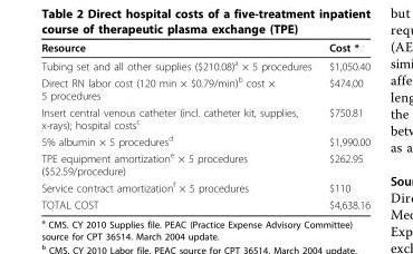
<table><thead><tr><td>Resource</td><td>Cost *</td></tr></thead><tbody><tr><td>Tubing set and all other supplies ($210.08)<sup>a</sup> × 5 procedures</td><td>$1,050.40</td></tr><tr><td>Direct RN labor cost (120 min × $0.79/min)<sup>b</sup> cost × 5 procedures</td><td>$474.00</td></tr><tr><td>Insert central venous catheter (incl. catheter kit, supplies, x-rays); hospital costs<sup>c</sup></td><td>$750.81</td></tr><tr><td>5% albumin × 5 procedures<sup>d</sup></td><td>$1,990.00</td></tr><tr><td>TPE equipment amortization<sup>e</sup> × 5 procedures ($52.59/procedure)</td><td>$262.95</td></tr><tr><td>Service contract amortization<sup>f</sup> × 5 procedures</td><td>$110</td></tr><tr><td>TOTAL COST</td><td>$4,638.16</td></tr></tbody></table>